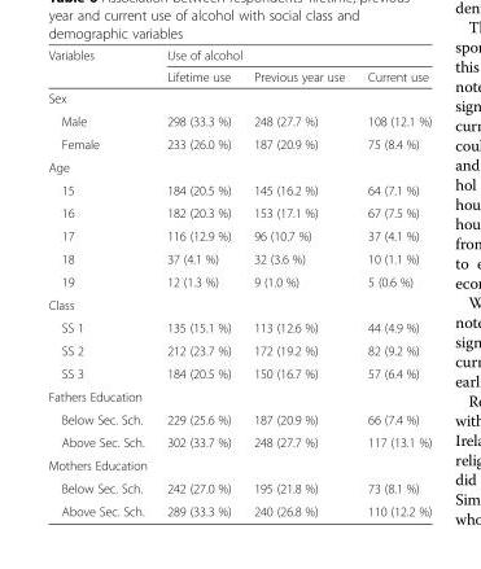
<table><thead><tr><td rowspan="2">Variables</td><td colspan="3">Use of alcohol</td></tr><tr><td>Lifetime use</td><td>Previous year use</td><td>Current use</td></tr></thead><tbody><tr><td colspan="4">Sex</td></tr><tr><td>Male</td><td>298 (33.3 %)</td><td>248 (27.7 %)</td><td>108 (12.1 %)</td></tr><tr><td>Female</td><td>233 (26.0 %)</td><td>187 (20.9 %)</td><td>75 (8.4 %)</td></tr><tr><td colspan="4">Age</td></tr><tr><td>15</td><td>184 (20.5 %)</td><td>145 (16.2 %)</td><td>64 (7.1 %)</td></tr><tr><td>16</td><td>182 (20.3 %)</td><td>153 (17.1 %)</td><td>67 (7.5 %)</td></tr><tr><td>17</td><td>116 (12.9 %)</td><td>96 (10.7 %)</td><td>37 (4.1 %)</td></tr><tr><td>18</td><td>37 (4.1 %)</td><td>32 (3.6 %)</td><td>10 (1.1 %)</td></tr><tr><td>19</td><td>12 (1.3 %)</td><td>9 (1.0 %)</td><td>5 (0.6 %)</td></tr><tr><td colspan="4">Class</td></tr><tr><td>SS 1</td><td>135 (15.1 %)</td><td>113 (12.6 %)</td><td>44 (4.9 %)</td></tr><tr><td>SS 2</td><td>212 (23.7 %)</td><td>172 (19.2 %)</td><td>82 (9.2 %)</td></tr><tr><td>SS 3</td><td>184 (20.5 %)</td><td>150 (16.7 %)</td><td>57 (6.4 %)</td></tr><tr><td colspan="4">Fathers Education</td></tr><tr><td>Below Sec. Sch.</td><td>229 (25.6 %)</td><td>187 (20.9 %)</td><td>66 (7.4 %)</td></tr><tr><td>Above Sec. Sch.</td><td>302 (33.7 %)</td><td>248 (27.7 %)</td><td>117 (13.1 %)</td></tr><tr><td colspan="4">Mothers Education</td></tr><tr><td>Below Sec. Sch.</td><td>242 (27.0 %)</td><td>195 (21.8 %)</td><td>73 (8.1 %)</td></tr><tr><td>Above Sec. Sch.</td><td>289 (33.3 %)</td><td>240 (26.8 %)</td><td>110 (12.2 %)</td></tr></tbody></table>